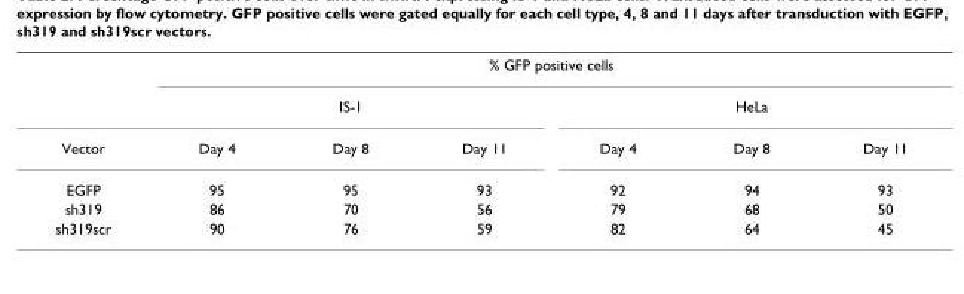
<table><thead><tr><td rowspan="3">Vector</td><td colspan="6">% GFP positive cells</td></tr><tr><td colspan="3">IS-1</td><td colspan="3">HeLa</td></tr><tr><td>Day 4</td><td>Day 8</td><td>Day 11</td><td>Day 4</td><td>Day 8</td><td>Day 11</td></tr></thead><tbody><tr><td>EGFP</td><td>95</td><td>95</td><td>93</td><td>92</td><td>94</td><td>93</td></tr><tr><td>sh319</td><td>86</td><td>70</td><td>56</td><td>79</td><td>68</td><td>50</td></tr><tr><td>sh319scr</td><td>90</td><td>76</td><td>59</td><td>82</td><td>64</td><td>45</td></tr></tbody></table>